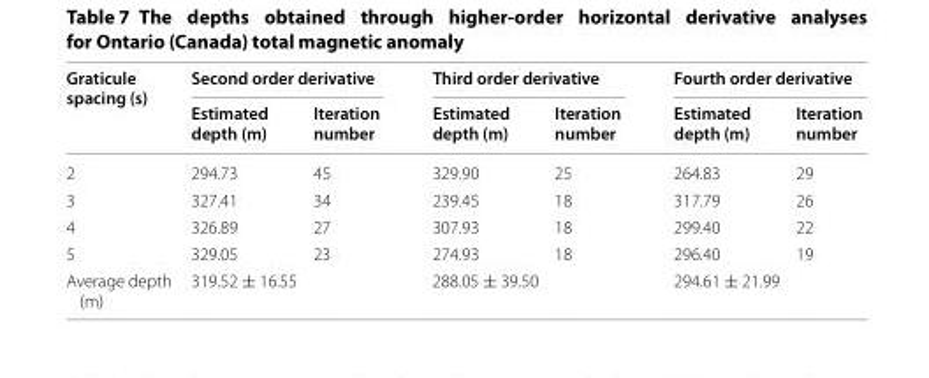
<table><thead><tr><td rowspan="2">Graticule spacing (s)</td><td colspan="2">Second order derivative</td><td colspan="2">Third order derivative</td><td colspan="2">Fourth order derivative</td></tr><tr><td>Estimated depth (m)</td><td>Iteration number</td><td>Estimated depth (m)</td><td>Iteration number</td><td>Estimated depth (m)</td><td>Iteration number</td></tr></thead><tbody><tr><td>2</td><td>294.73</td><td>45</td><td>329.90</td><td>25</td><td>264.83</td><td>29</td></tr><tr><td>3</td><td>327.41</td><td>34</td><td>239.45</td><td>18</td><td>317.79</td><td>26</td></tr><tr><td>4</td><td>326.89</td><td>27</td><td>307.93</td><td>18</td><td>299.40</td><td>22</td></tr><tr><td>5</td><td>329.05</td><td>23</td><td>274.93</td><td>18</td><td>296.40</td><td>19</td></tr><tr><td>Average depth (m)</td><td>319.52 ± 16.55</td><td></td><td>288.05 ± 39.50</td><td></td><td>294.61 ± 21.99</td><td></td></tr></tbody></table>